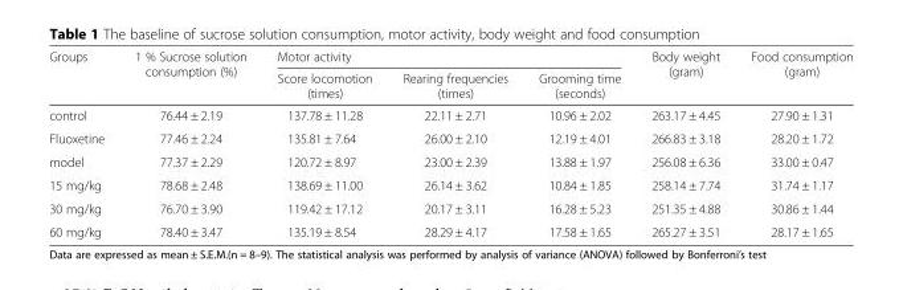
<table><thead><tr><td rowspan="2">Groups</td><td rowspan="2">1 % Sucrose solution consumption (%)</td><td colspan="3">Motor activity</td><td rowspan="2">Body weight (gram)</td><td rowspan="2">Food consumption (gram)</td></tr><tr><td>Score locomotion (times)</td><td>Rearing frequencies (times)</td><td>Grooming time (seconds)</td></tr></thead><tbody><tr><td>control</td><td>76.44 ± 2.19</td><td>137.78 ± 11.28</td><td>22.11 ± 2.71</td><td>10.96 ± 2.02</td><td>263.17 ± 4.45</td><td>27.90 ± 1.31</td></tr><tr><td>Fluoxetine</td><td>77.46 ± 2.24</td><td>135.81 ± 7.64</td><td>26.00 ± 2.10</td><td>12.19 ± 4.01</td><td>266.83 ± 3.18</td><td>28.20 ± 1.72</td></tr><tr><td>model</td><td>77.37 ± 2.29</td><td>120.72 ± 8.97</td><td>23.00 ± 2.39</td><td>13.88 ± 1.97</td><td>256.08 ± 6.36</td><td>33.00 ± 0.47</td></tr><tr><td>15 mg/kg</td><td>78.68 ± 2.48</td><td>138.69 ± 11.00</td><td>26.14 ± 3.62</td><td>10.84 ± 1.85</td><td>258.14 ± 7.74</td><td>31.74 ± 1.17</td></tr><tr><td>30 mg/kg</td><td>76.70 ± 3.90</td><td>119.42 ± 17.12</td><td>20.17 ± 3.11</td><td>16.28 ± 5.23</td><td>251.35 ± 4.88</td><td>30.86 ± 1.44</td></tr><tr><td>60 mg/kg</td><td>78.40 ± 3.47</td><td>135.19 ± 8.54</td><td>28.29 ± 4.17</td><td>17.58 ± 1.65</td><td>265.27 ± 3.51</td><td>28.17 ± 1.65</td></tr></tbody></table>